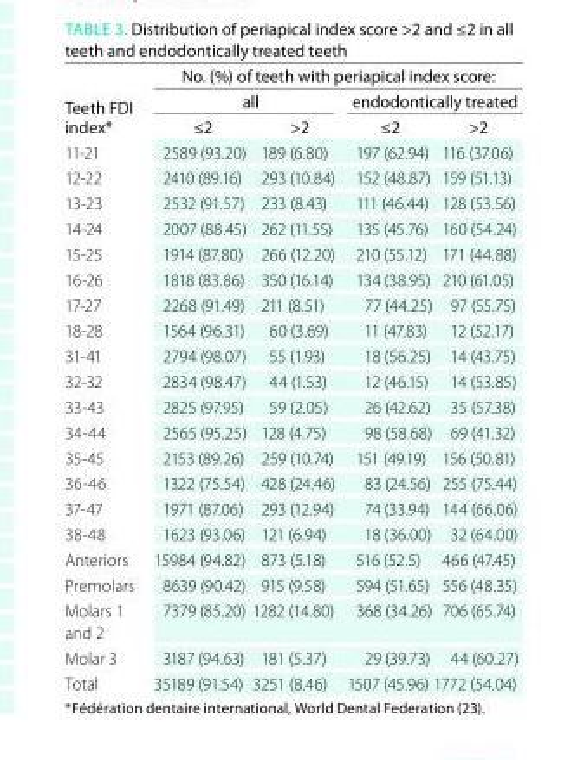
<table><thead><tr><td rowspan="3">Teeth FDI index*</td><td colspan="4">no. (%) of teeth with periapical index score:</td></tr><tr><td colspan="2">all</td><td colspan="2">endodontically treated</td></tr><tr><td>≤2</td><td>&gt;2</td><td>≤2</td><td>&gt;2</td></tr></thead><tbody><tr><td>11-21</td><td>2589 (93.20)</td><td>189 (6.80)</td><td>197 (62.94)</td><td>116 (37.06)</td></tr><tr><td>12-22</td><td>2410 (89.16)</td><td>293 (10.84)</td><td>152 (48.87)</td><td>159 (51.13)</td></tr><tr><td>13-23</td><td>2532 (91.57)</td><td>233 (8.43)</td><td>111 (46.44)</td><td>128 (53.56)</td></tr><tr><td>14-24</td><td>2007 (88.45)</td><td>262 (11.55)</td><td>135 (45.76)</td><td>160 (54.24)</td></tr><tr><td>15-25</td><td>1914 (87.80)</td><td>266 (12.20)</td><td>210 (55.12)</td><td>171 (44.88)</td></tr><tr><td>16-26</td><td>1818 (83.86)</td><td>350 (16.14)</td><td>134 (38.95)</td><td>210 (61.05)</td></tr><tr><td>17-27</td><td>2268 (91.49)</td><td>211 (8.51)</td><td>77 (44.25)</td><td>97 (55.75)</td></tr><tr><td>18-28</td><td>1564 (96.31)</td><td>60 (3.69)</td><td>11 (47.83)</td><td>12 (52.17)</td></tr><tr><td>31-41</td><td>2794 (98.07)</td><td>55 (1.93)</td><td>18 (56.25)</td><td>14 (43.75)</td></tr><tr><td>32-32</td><td>2834 (98.47)</td><td>44 (1.53)</td><td>12 (46.15)</td><td>14 (53.85)</td></tr><tr><td>33-43</td><td>2825 (97.95)</td><td>59 (2.05)</td><td>26 (42.62)</td><td>35 (57.38)</td></tr><tr><td>34-44</td><td>2565 (95.25)</td><td>128 (4.75)</td><td>98 (58.68)</td><td>69 (41.32)</td></tr><tr><td>35-45</td><td>2153 (89.26)</td><td>259 (10.74)</td><td>151 (49.19)</td><td>156 (50.81)</td></tr><tr><td>36-46</td><td>1322 (75.54)</td><td>428 (24.46)</td><td>83 (24.56)</td><td>255 (75.44)</td></tr><tr><td>37-47</td><td>1971 (87.06)</td><td>293 (12.94)</td><td>74 (33.94)</td><td>144 (66.06)</td></tr><tr><td>38-48</td><td>1623 (93.06)</td><td>121 (6.94)</td><td>18 (36.00)</td><td>32 (64.00)</td></tr><tr><td>Anteriors</td><td>15984 (94.82)</td><td>873 (5.18)</td><td>516 (52.5)</td><td>466 (47.45)</td></tr><tr><td>Premolars</td><td>8639 (90.42)</td><td>915 (9.58)</td><td>594 (51.65)</td><td>556 (48.35)</td></tr><tr><td>Molars 1 and 2</td><td>7379 (85.20)</td><td>1282 (14.80)</td><td>368 (34.26)</td><td>706 (65.74)</td></tr><tr><td>Molar 3</td><td>3187 (94.63)</td><td>181 (5.37)</td><td>29 (39.73)</td><td>44 (60.27)</td></tr><tr><td>Total</td><td>35189 (91.54)</td><td>3251 (8.46)</td><td>1507 (45.96)</td><td>1772 (54.04)</td></tr></tbody></table>